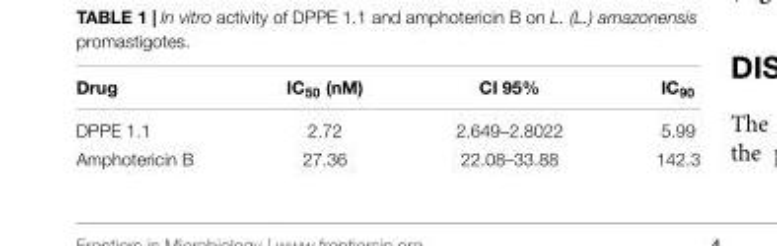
<table><thead><tr><td>Drug</td><td>IC<sub>50</sub> (nM)</td><td>CI 95%</td><td>IC<sub>90</sub></td></tr></thead><tbody><tr><td>DPPE 1.1</td><td>2.72</td><td>2.649–2.8022</td><td>5.99</td></tr><tr><td>Amphotericin B</td><td>27.36</td><td>22.08–33.88</td><td>142.3</td></tr></tbody></table>